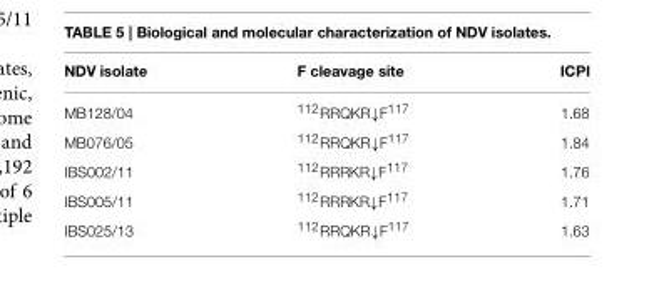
<table><thead><tr><td>NDV isolate</td><td>F cleavage site</td><td>ICPI</td></tr></thead><tbody><tr><td>MB128/04</td><td><sup>112</sup>RRQKR↓F<sup>117</sup></td><td>1.68</td></tr><tr><td>MB076/05</td><td><sup>112</sup>RRQKR↓F<sup>117</sup></td><td>1.84</td></tr><tr><td>IBS002/11</td><td><sup>112</sup>RRRKR↓F<sup>117</sup></td><td>1.76</td></tr><tr><td>IBS005/11</td><td><sup>112</sup>RRRKR↓F<sup>117</sup></td><td>1.71</td></tr><tr><td>IBS025/13</td><td><sup>112</sup>RRQKR↓F<sup>117</sup></td><td>1.63</td></tr></tbody></table>